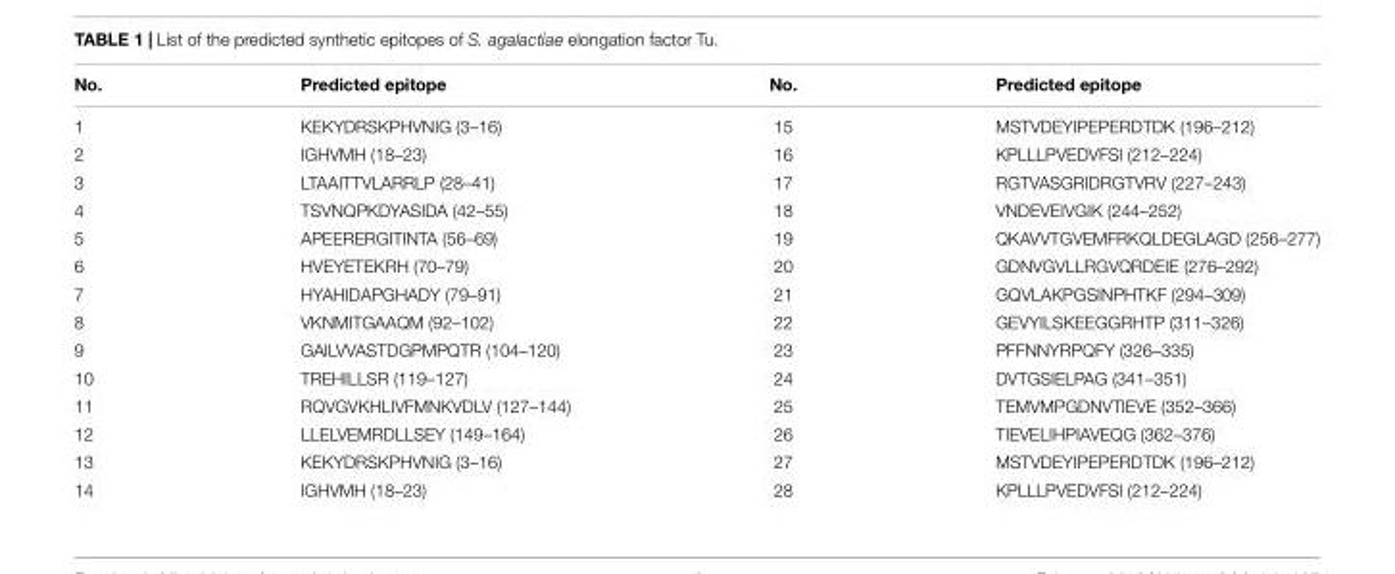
<table><thead><tr><td>No.</td><td>Predicted epitope</td><td>No.</td><td>Predicted epitope</td></tr></thead><tbody><tr><td>1</td><td>KEKYDRSKPHVNIG (3–16)</td><td>15</td><td>MSTVDEYIPEPERDTDK (196–212)</td></tr><tr><td>2</td><td>IGHVMH (18–23)</td><td>16</td><td>KPLLLPVEDVFSI (212–224)</td></tr><tr><td>3</td><td>LTAAITTVLARRLP (28–41)</td><td>17</td><td>RGTVASGRIDRGTVRV (227–243)</td></tr><tr><td>4</td><td>TSVNQPKDYASIDA (42–55)</td><td>18</td><td>VNDEVEIVGIK (244–252)</td></tr><tr><td>5</td><td>APEERERGITINTA (56–69)</td><td>19</td><td>QKAVVTGVEMFRKQLDEGLAGD (256–277)</td></tr><tr><td>6</td><td>HVEYETEKRH (70–79)</td><td>20</td><td>GDNVGVLLRGVQRDEIE (276–292)</td></tr><tr><td>7</td><td>HYAHIDAPGHADY (79–91)</td><td>21</td><td>GQVLAKPGSINPHTKF (294–309)</td></tr><tr><td>8</td><td>VKNMITGAAQM (92–102)</td><td>22</td><td>GEVYILSKEEGGRHTP (311–326)</td></tr><tr><td>9</td><td>GAILVVASTDGPMPQTR (104–120)</td><td>23</td><td>PFFNNYRPQFY (326–335)</td></tr><tr><td>10</td><td>TREHILLSR (119–127)</td><td>24</td><td>DVTGSIELPAG (341–351)</td></tr><tr><td>11</td><td>RQVGVKHLIVFMNKVDLV (127–144)</td><td>25</td><td>TEMVMPGDNVTIEVE (352–366)</td></tr><tr><td>12</td><td>LLELVEMRDLLSEY (149–164)</td><td>26</td><td>TIEVELIHPIAVEQG (362–376)</td></tr><tr><td>13</td><td>KEKYDRSKPHVNIG (3–16)</td><td>27</td><td>MSTVDEYIPEPERDTDK (196–212)</td></tr><tr><td>14</td><td>IGHVMH (18–23)</td><td>28</td><td>KPLLLPVEDVFSI (212–224)</td></tr></tbody></table>